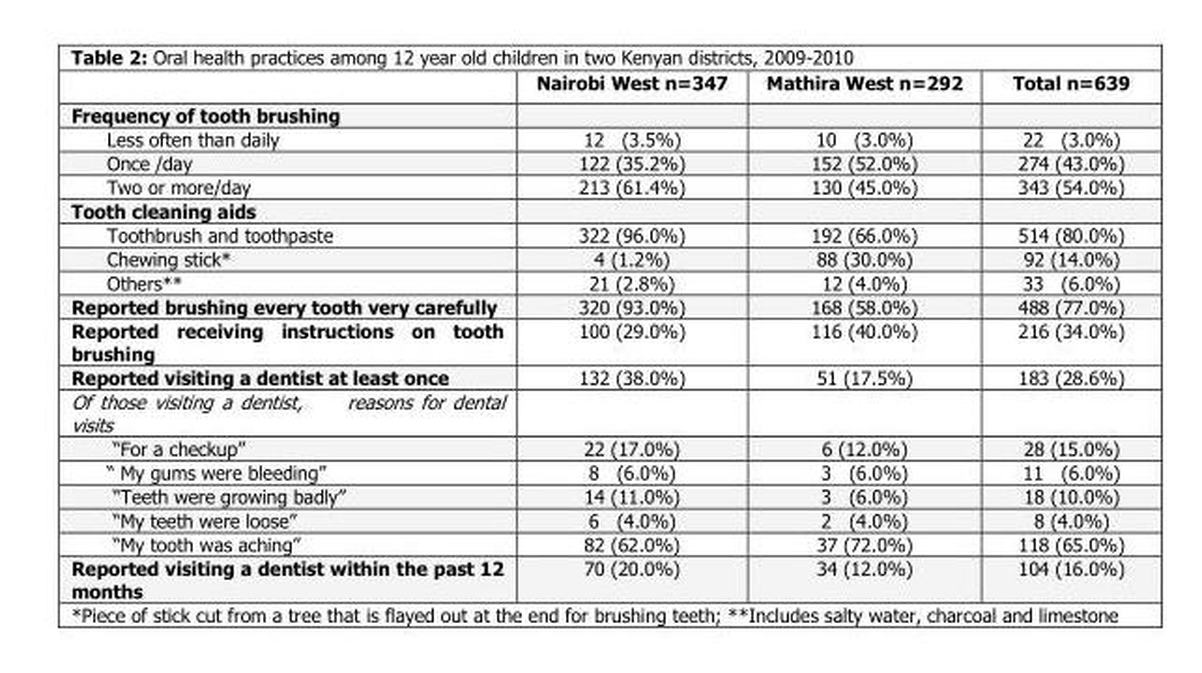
<table><thead><tr><td></td><td>Nairobi West n=347</td><td>Mathira West n=292</td><td>Total n=639</td></tr></thead><tbody><tr><td colspan="4">Frequency of tooth brushing</td></tr><tr><td>Less often than daily</td><td>12 (3.5%)</td><td>10 (3.0%)</td><td>22 (3.0%)</td></tr><tr><td>Once /day</td><td>122 (35.2%)</td><td>152 (52.0%)</td><td>274 (43.0%)</td></tr><tr><td>Two or more/day</td><td>213 (61.4%)</td><td>130 (45.0%)</td><td>343 (54.0%)</td></tr><tr><td colspan="4">Tooth cleaning aids</td></tr><tr><td>Toothbrush and toothpaste</td><td>322 (96.0%)</td><td>192 (66.0%)</td><td>514 (80.0%)</td></tr><tr><td>Chewing stick*</td><td>4 (1.2%)</td><td>88 (30.0%)</td><td>92 (14.0%)</td></tr><tr><td>Others**</td><td>21 (2.8%)</td><td>12 (4.0%)</td><td>33 (6.0%)</td></tr><tr><td>Reported brushing every tooth very carefully</td><td>320 (93.0%)</td><td>168 (58.0%)</td><td>488 (77.0%)</td></tr><tr><td>Reported receiving instructions on tooth brushing</td><td>100 (29.0%)</td><td>116 (40.0%)</td><td>216 (34.0%)</td></tr><tr><td>Reported visiting a dentist at least once</td><td>132 (38.0%)</td><td>51 (17.5%)</td><td>183 (28.6%)</td></tr><tr><td colspan="4">Of those visiting a dentist, reasons for dental visits</td></tr><tr><td>“For a checkup”</td><td>22 (17.0%)</td><td>6 (12.0%)</td><td>28 (15.0%)</td></tr><tr><td>“ My gums were bleeding”</td><td>8 (6.0%)</td><td>3 (6.0%)</td><td>11 (6.0%)</td></tr><tr><td>“Teeth were growing badly”</td><td>14 (11.0%)</td><td>3 (6.0%)</td><td>18 (10.0%)</td></tr><tr><td>“My teeth were loose”</td><td>6 (4.0%)</td><td>2 (4.0%)</td><td>8 (4.0%)</td></tr><tr><td>“My tooth was aching”</td><td>82 (62.0%)</td><td>37 (72.0%)</td><td>118 (65.0%)</td></tr><tr><td>Reported visiting a dentist within the past 12 months</td><td>70 (20.0%)</td><td>34 (12.0%)</td><td>104 (16.0%)</td></tr></tbody></table>